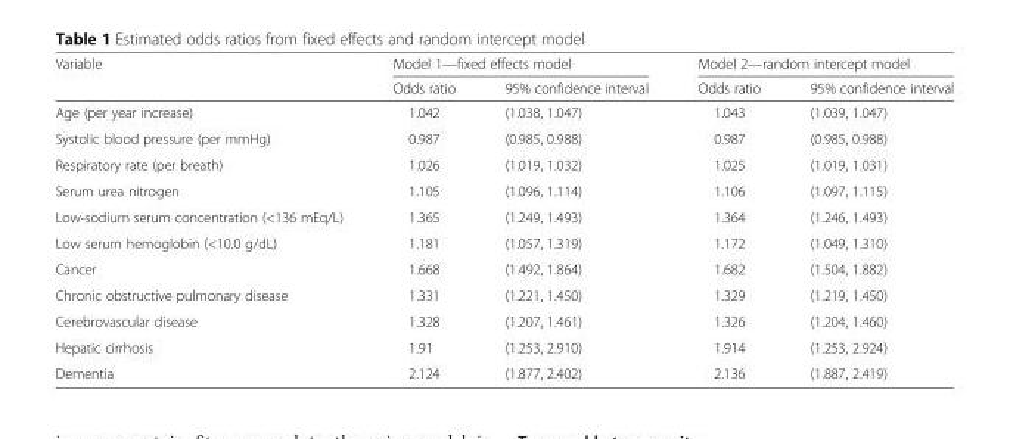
<table><thead><tr><td rowspan="2">Variable</td><td colspan="2">Model 1—fixed effects model</td><td colspan="2">Model 2—random intercept model</td></tr><tr><td>Odds ratio</td><td>95% confidence interval</td><td>Odds ratio</td><td>95% confidence interval</td></tr></thead><tbody><tr><td>Age (per year increase)</td><td>1.042</td><td>(1.038, 1.047)</td><td>1.043</td><td>(1.039, 1.047)</td></tr><tr><td>Systolic blood pressure (per mmHg)</td><td>0.987</td><td>(0.985, 0.988)</td><td>0.987</td><td>(0.985, 0.988)</td></tr><tr><td>Respiratory rate (per breath)</td><td>1.026</td><td>(1.019, 1.032)</td><td>1.025</td><td>(1.019, 1.031)</td></tr><tr><td>Serum urea nitrogen</td><td>1.105</td><td>(1.096, 1.114)</td><td>1.106</td><td>(1.097, 1.115)</td></tr><tr><td>Low-sodium serum concentration (&lt;136 mEq/L)</td><td>1.365</td><td>(1.249, 1.493)</td><td>1.364</td><td>(1.246, 1.493)</td></tr><tr><td>Low serum hemoglobin (&lt;10.0 g/dL)</td><td>1.181</td><td>(1.057, 1.319)</td><td>1.172</td><td>(1.049, 1.310)</td></tr><tr><td>Cancer</td><td>1.668</td><td>(1.492, 1.864)</td><td>1.682</td><td>(1.504, 1.882)</td></tr><tr><td>Chronic obstructive pulmonary disease</td><td>1.331</td><td>(1.221, 1.450)</td><td>1.329</td><td>(1.219, 1.450)</td></tr><tr><td>Cerebrovascular disease</td><td>1.328</td><td>(1.207, 1.461)</td><td>1.326</td><td>(1.204, 1.460)</td></tr><tr><td>Hepatic cirrhosis</td><td>1.91</td><td>(1.253, 2.910)</td><td>1.914</td><td>(1.253, 2.924)</td></tr><tr><td>Dementia</td><td>2.124</td><td>(1.877, 2.402)</td><td>2.136</td><td>(1.887, 2.419)</td></tr></tbody></table>